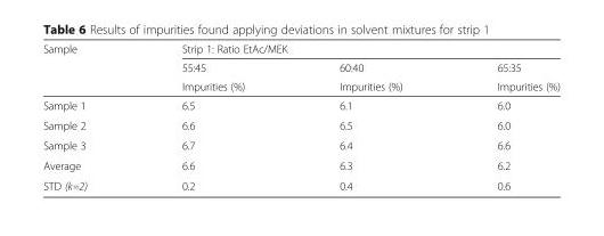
<table><thead><tr><td rowspan="3">Sample</td><td colspan="3">Strip 1: Ratio EtAc/MEK</td></tr><tr><td rowspan="2">55:45 Impurities (%)</td><td rowspan="2">60:40 Impurities (%)</td><td rowspan="2">65:35 Impurities (%)</td></tr><tr></tr></thead><tbody><tr><td>Sample 1</td><td>6.5</td><td>6.1</td><td>6.0</td></tr><tr><td>Sample 2</td><td>6.6</td><td>6.5</td><td>6.0</td></tr><tr><td>Sample 3</td><td>6.7</td><td>6.4</td><td>6.6</td></tr><tr><td>Average</td><td>6.6</td><td>6.3</td><td>6.2</td></tr><tr><td>STD (k=2)</td><td>0.2</td><td>0.4</td><td>0.6</td></tr></tbody></table>